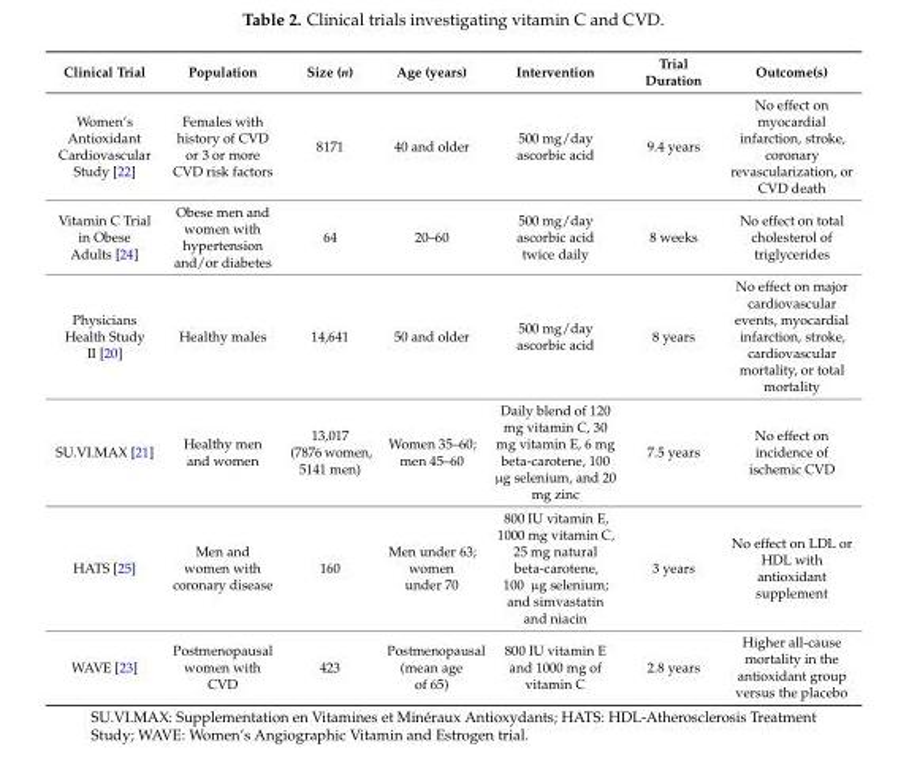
<table><thead><tr><td>Clinical Trial</td><td>Population</td><td>Size (n)</td><td>Age (years)</td><td>Intervention</td><td>Trial Duration</td><td>Outcome(s)</td></tr></thead><tbody><tr><td>Women’s Antioxidant Cardiovascular Study [22]</td><td>Females with history of CVD or 3 or more CVD risk factors</td><td>8171</td><td>40 and older</td><td>500 mg/day ascorbic acid</td><td>9.4 years</td><td>No effect on myocardial infarction, stroke, coronary revascularization, or CVD death</td></tr><tr><td>Vitamin C Trial in Obese Adults [24]</td><td>Obese men and women with hypertension and/or diabetes</td><td>64</td><td>20–60</td><td>500 mg/day ascorbic acid twice daily</td><td>8 weeks</td><td>No effect on total cholesterol of triglycerides</td></tr><tr><td>Physicians Health Study II [20]</td><td>Healthy males</td><td>14,641</td><td>50 and older</td><td>500 mg/day ascorbic acid</td><td>8 years</td><td>No effect on major cardiovascular events, myocardial infarction, stroke, cardiovascular mortality, or total mortality</td></tr><tr><td>SU.VI.MAX [21]</td><td>Healthy men and women</td><td>13,017 (7876 women, 5141 men)</td><td>Women 35–60; men 45–60</td><td>Daily blend of 120 mg vitamin C, 30 mg vitamin E, 6 mg beta-carotene, 100 µg selenium, and 20 mg zinc</td><td>7.5 years</td><td>No effect on incidence of ischemic CVD</td></tr><tr><td>HATS [25]</td><td>Men and women with coronary disease</td><td>160</td><td>Men under 63; women under 70</td><td>800 IU vitamin E, 1000 mg vitamin C, 25 mg natural beta-carotene, 100 µg selenium; and simvastatin and niacin</td><td>3 years</td><td>No effect on LDL or HDL with antioxidant supplement</td></tr><tr><td>WAVE [23]</td><td>Postmenopausal women with CVD</td><td>423</td><td>Postmenopausal (mean age of 65)</td><td>800 IU vitamin E and 1000 mg of vitamin C</td><td>2.8 years</td><td>Higher all-cause mortality in the antioxidant group versus the placebo</td></tr></tbody></table>